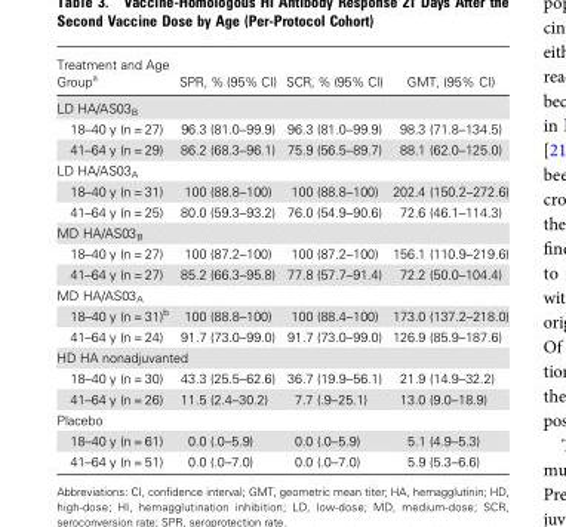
<table><thead><tr><td>Treatment and Age Group<sup>a</sup></td><td>SPR, % (95% CI)</td><td>SCR, % (95% CI)</td><td>GMT, (95% CI)</td></tr></thead><tbody><tr><td colspan="4">LD HA/AS03<sub>B</sub></td></tr><tr><td>18–40 y (n = 27)</td><td>96.3 (81.0–99.9)</td><td>96.3 (81.0–99.9)</td><td>98.3 (71.8–134.5)</td></tr><tr><td>41–64 y (n = 29)</td><td>86.2 (68.3–96.1)</td><td>75.9 (56.5–89.7)</td><td>88.1 (62.0–125.0)</td></tr><tr><td colspan="4">LD HA/AS03<sub>A</sub></td></tr><tr><td>18–40 y (n = 31)</td><td>100 (88.8–100)</td><td>100 (88.8–100)</td><td>202.4 (150.2–272.6)</td></tr><tr><td>41–64 y (n = 25)</td><td>80.0 (59.3–93.2)</td><td>76.0 (54.9–90.6)</td><td>72.6 (46.1–114.3)</td></tr><tr><td colspan="4">MD HA/AS03<sub>B</sub></td></tr><tr><td>18–40 y (n = 27)</td><td>100 (87.2–100)</td><td>100 (87.2–100)</td><td>156.1 (110.9–219.6)</td></tr><tr><td>41–64 y (n = 27)</td><td>85.2 (66.3–95.8)</td><td>77.8 (57.7–91.4)</td><td>72.2 (50.0–104.4)</td></tr><tr><td colspan="4">MD HA/AS03<sub>A</sub></td></tr><tr><td>18–40 y (n = 31)<sup>b</sup></td><td>100 (88.8–100)</td><td>100 (88.4–100)</td><td>173.0 (137.2–218.0)</td></tr><tr><td>41–64 y (n = 24)</td><td>91.7 (73.0–99.0)</td><td>91.7 (73.0–99.0)</td><td>126.9 (85.9–187.6)</td></tr><tr><td colspan="4">HD HA nonadjuvanted</td></tr><tr><td>18–40 y (n = 30)</td><td>43.3 (25.5–62.6)</td><td>36.7 (19.9–56.1)</td><td>21.9 (14.9–32.2)</td></tr><tr><td>41–64 y (n = 26)</td><td>11.5 (2.4–30.2)</td><td>7.7 (.9–25.1)</td><td>13.0 (9.0–18.9)</td></tr><tr><td colspan="4">Placebo</td></tr><tr><td>18–40 y (n = 61)</td><td>0.0 (.0–5.9)</td><td>0.0 (.0–5.9)</td><td>5.1 (4.9–5.3)</td></tr><tr><td>41–64 y (n = 51)</td><td>0.0 (.0–7.0)</td><td>0.0 (.0–7.0)</td><td>5.9 (5.3–6.6)</td></tr></tbody></table>